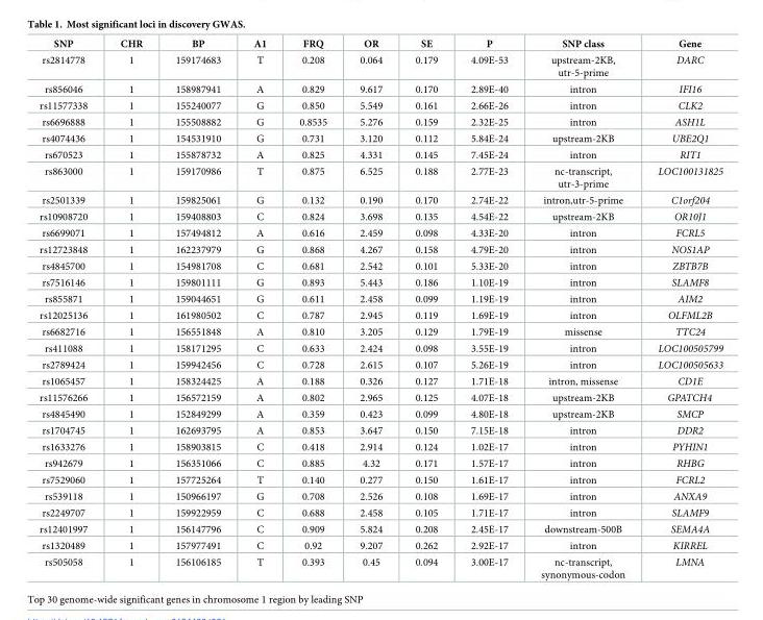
<table><thead><tr><td>SNP</td><td>CHR</td><td>BP</td><td>A1</td><td>FRQ</td><td>OR</td><td>SE</td><td>P</td><td>SNP class</td><td>Gene</td></tr></thead><tbody><tr><td>rs2814778</td><td>1</td><td>159174683</td><td>T</td><td>0.208</td><td>0.064</td><td>0.179</td><td>4.09E-53</td><td>upstream-2KB, utr-5-prime</td><td>DARC</td></tr><tr><td>rs856046</td><td>1</td><td>158987941</td><td>A</td><td>0.829</td><td>9.617</td><td>0.170</td><td>2.89E-40</td><td>intron</td><td>IFI16</td></tr><tr><td>rs11577338</td><td>1</td><td>155240077</td><td>G</td><td>0.850</td><td>5.549</td><td>0.161</td><td>2.66E-26</td><td>intron</td><td>CLK2</td></tr><tr><td>rs6696888</td><td>1</td><td>155508882</td><td>G</td><td>0.8535</td><td>5.276</td><td>0.159</td><td>2.32E-25</td><td>intron</td><td>ASH1L</td></tr><tr><td>rs4074436</td><td>1</td><td>154531910</td><td>G</td><td>0.731</td><td>3.120</td><td>0.112</td><td>5.84E-24</td><td>upstream-2KB</td><td>UBE2Q1</td></tr><tr><td>rs670523</td><td>1</td><td>155878732</td><td>A</td><td>0.825</td><td>4.331</td><td>0.145</td><td>7.45E-24</td><td>intron</td><td>RIT1</td></tr><tr><td>rs863000</td><td>1</td><td>159170986</td><td>T</td><td>0.875</td><td>6.525</td><td>0.188</td><td>2.77E-23</td><td>nc-transcript, utr-3-prime</td><td>LOC100131825</td></tr><tr><td>rs2501339</td><td>1</td><td>159825061</td><td>G</td><td>0.132</td><td>0.190</td><td>0.170</td><td>2.74E-22</td><td>intron,utr-5-prime</td><td>C1orf204</td></tr><tr><td>rs10908720</td><td>1</td><td>159408803</td><td>C</td><td>0.824</td><td>3.698</td><td>0.135</td><td>4.54E-22</td><td>upstream-2KB</td><td>OR10J1</td></tr><tr><td>rs6699071</td><td>1</td><td>157494812</td><td>A</td><td>0.616</td><td>2.459</td><td>0.098</td><td>4.33E-20</td><td>intron</td><td>FCRL5</td></tr><tr><td>rs12723848</td><td>1</td><td>162237979</td><td>G</td><td>0.868</td><td>4.267</td><td>0.158</td><td>4.79E-20</td><td>intron</td><td>NOS1AP</td></tr><tr><td>rs4845700</td><td>1</td><td>154981708</td><td>C</td><td>0.681</td><td>2.542</td><td>0.101</td><td>5.33E-20</td><td>intron</td><td>ZBTB7B</td></tr><tr><td>rs7516146</td><td>1</td><td>159801111</td><td>G</td><td>0.893</td><td>5.443</td><td>0.186</td><td>1.10E-19</td><td>intron</td><td>SLAMF8</td></tr><tr><td>rs855871</td><td>1</td><td>159044651</td><td>G</td><td>0.611</td><td>2.458</td><td>0.099</td><td>1.19E-19</td><td>intron</td><td>AIM2</td></tr><tr><td>rs12025136</td><td>1</td><td>161980502</td><td>C</td><td>0.787</td><td>2.945</td><td>0.119</td><td>1.69E-19</td><td>intron</td><td>OLFML2B</td></tr><tr><td>rs6682716</td><td>1</td><td>156551848</td><td>A</td><td>0.810</td><td>3.205</td><td>0.129</td><td>1.79E-19</td><td>missense</td><td>TTC24</td></tr><tr><td>rs411088</td><td>1</td><td>158171295</td><td>C</td><td>0.633</td><td>2.424</td><td>0.098</td><td>3.55E-19</td><td>intron</td><td>LOC100505799</td></tr><tr><td>rs2789424</td><td>1</td><td>159942456</td><td>C</td><td>0.728</td><td>2.615</td><td>0.107</td><td>5.26E-19</td><td>intron</td><td>LOC100505633</td></tr><tr><td>rs1065457</td><td>1</td><td>158324425</td><td>A</td><td>0.188</td><td>0.326</td><td>0.127</td><td>1.71E-18</td><td>intron, missense</td><td>CD1E</td></tr><tr><td>rs11576266</td><td>1</td><td>156572159</td><td>A</td><td>0.802</td><td>2.965</td><td>0.125</td><td>4.07E-18</td><td>upstream-2KB</td><td>GPATCH4</td></tr><tr><td>rs4845490</td><td>1</td><td>152849299</td><td>A</td><td>0.359</td><td>0.423</td><td>0.099</td><td>4.80E-18</td><td>upstream-2KB</td><td>SMCP</td></tr><tr><td>rs1704745</td><td>1</td><td>162693795</td><td>A</td><td>0.853</td><td>3.647</td><td>0.150</td><td>7.15E-18</td><td>intron</td><td>DDR2</td></tr><tr><td>rs1633276</td><td>1</td><td>158903815</td><td>C</td><td>0.418</td><td>2.914</td><td>0.124</td><td>1.02E-17</td><td>intron</td><td>PYHIN1</td></tr><tr><td>rs942679</td><td>1</td><td>156351066</td><td>C</td><td>0.885</td><td>4.32</td><td>0.171</td><td>1.57E-17</td><td>intron</td><td>RHBG</td></tr><tr><td>rs7529060</td><td>1</td><td>157725264</td><td>T</td><td>0.140</td><td>0.277</td><td>0.150</td><td>1.61E-17</td><td>intron</td><td>FCRL2</td></tr><tr><td>rs539118</td><td>1</td><td>150966197</td><td>G</td><td>0.708</td><td>2.526</td><td>0.108</td><td>1.69E-17</td><td>intron</td><td>ANXA9</td></tr><tr><td>rs2249707</td><td>1</td><td>159922959</td><td>C</td><td>0.688</td><td>2.458</td><td>0.105</td><td>1.71E-17</td><td>intron</td><td>SLAMF9</td></tr><tr><td>rs12401997</td><td>1</td><td>156147796</td><td>C</td><td>0.909</td><td>5.824</td><td>0.208</td><td>2.45E-17</td><td>downstream-500B</td><td>SEMA4A</td></tr><tr><td>rs1320489</td><td>1</td><td>157977491</td><td>C</td><td>0.92</td><td>9.207</td><td>0.262</td><td>2.92E-17</td><td>intron</td><td>KIRREL</td></tr><tr><td>rs505058</td><td>1</td><td>156106185</td><td>T</td><td>0.393</td><td>0.45</td><td>0.094</td><td>3.00E-17</td><td>nc-transcript, synonymous-codon</td><td>LMNA</td></tr></tbody></table>